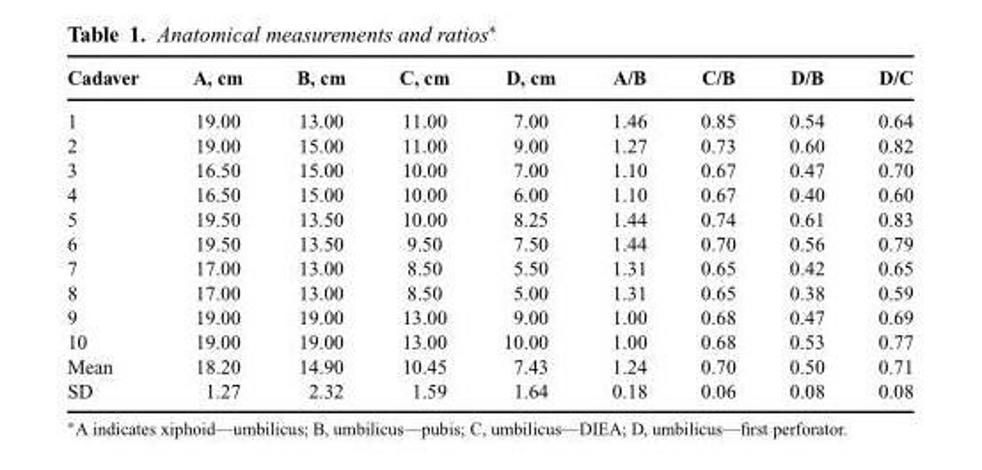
<table><thead><tr><td>Cadaver</td><td>A, cm</td><td>B, cm</td><td>C, cm</td><td>D, cm</td><td>A/B</td><td>C/B</td><td>D/B</td><td>D/C</td></tr></thead><tbody><tr><td>1</td><td>19.00</td><td>13.00</td><td>11.00</td><td>7.00</td><td>1.46</td><td>0.85</td><td>0.54</td><td>0.64</td></tr><tr><td>2</td><td>19.00</td><td>15.00</td><td>11.00</td><td>9.00</td><td>1.27</td><td>0.73</td><td>0.60</td><td>0.82</td></tr><tr><td>3</td><td>16.50</td><td>15.00</td><td>10.00</td><td>7.00</td><td>1.10</td><td>0.67</td><td>0.47</td><td>0.70</td></tr><tr><td>4</td><td>16.50</td><td>15.00</td><td>10.00</td><td>6.00</td><td>1.10</td><td>0.67</td><td>0.40</td><td>0.60</td></tr><tr><td>5</td><td>19.50</td><td>13.50</td><td>10.00</td><td>8.25</td><td>1.44</td><td>0.74</td><td>0.61</td><td>0.83</td></tr><tr><td>6</td><td>19.50</td><td>13.50</td><td>9.50</td><td>7.50</td><td>1.44</td><td>0.70</td><td>0.56</td><td>0.79</td></tr><tr><td>7</td><td>17.00</td><td>13.00</td><td>8.50</td><td>5.50</td><td>1.31</td><td>0.65</td><td>0.42</td><td>0.65</td></tr><tr><td>8</td><td>17.00</td><td>13.00</td><td>8.50</td><td>5.00</td><td>1.31</td><td>0.65</td><td>0.38</td><td>0.59</td></tr><tr><td>9</td><td>19.00</td><td>19.00</td><td>13.00</td><td>9.00</td><td>1.00</td><td>0.68</td><td>0.47</td><td>0.69</td></tr><tr><td>10</td><td>19.00</td><td>19.00</td><td>13.00</td><td>10.00</td><td>1.00</td><td>0.68</td><td>0.53</td><td>0.77</td></tr><tr><td>Mean</td><td>18.20</td><td>14.90</td><td>10.45</td><td>7.43</td><td>1.24</td><td>0.70</td><td>0.50</td><td>0.71</td></tr><tr><td>SD</td><td>1.27</td><td>2.32</td><td>1.59</td><td>1.64</td><td>0.18</td><td>0.06</td><td>0.08</td><td>0.08</td></tr></tbody></table>